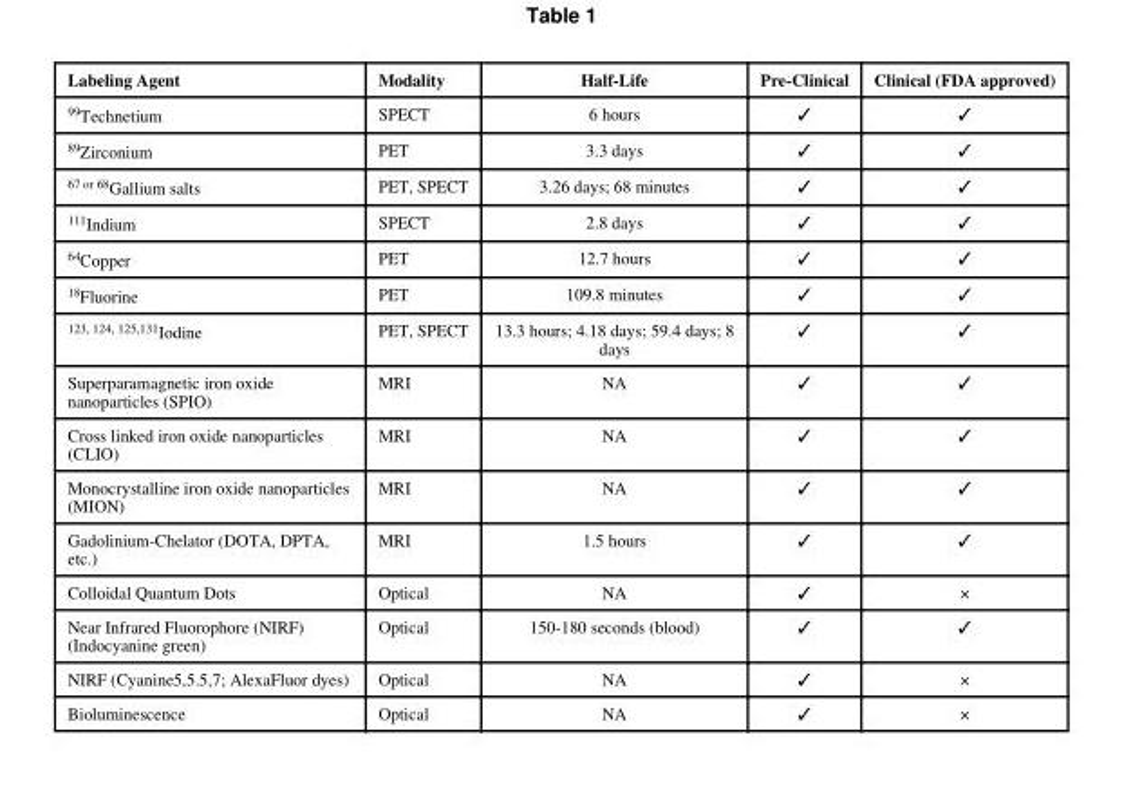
<table><thead><tr><td>Labeling Agent</td><td>Modality</td><td>Half-Life</td><td>Pre-Clinical</td><td>Clinical (FDA approved)</td></tr></thead><tbody><tr><td><sup>99</sup>Technetium</td><td>SPECT</td><td>6 hours</td><td>✓</td><td>✓</td></tr><tr><td><sup>89</sup>Zirconium</td><td>PET</td><td>3.3 days</td><td>✓</td><td>✓</td></tr><tr><td><sup>67 or 68</sup>Gallium salts</td><td>PET, SPECT</td><td>3.26 days; 68 minutes</td><td>✓</td><td>✓</td></tr><tr><td><sup>111</sup>Indium</td><td>SPECT</td><td>2.8 days</td><td>✓</td><td>✓</td></tr><tr><td><sup>64</sup>Copper</td><td>PET</td><td>12.7 hours</td><td>✓</td><td>✓</td></tr><tr><td><sup>18</sup>Fluorine</td><td>PET</td><td>109.8 minutes</td><td>✓</td><td>✓</td></tr><tr><td><sup>123, 124, 125,131</sup>Iodine</td><td>PET, SPECT</td><td>13.3 hours; 4.18 days; 59.4 days; 8 days</td><td>✓</td><td>✓</td></tr><tr><td>Superparamagnetic iron oxide nanoparticles (SPIO)</td><td>MRI</td><td>NA</td><td>✓</td><td>✓</td></tr><tr><td>Cross linked iron oxide nanoparticles (CLIO)</td><td>MRI</td><td>NA</td><td>✓</td><td>✓</td></tr><tr><td>Monocrystalline iron oxide nanoparticles (MION)</td><td>MRI</td><td>NA</td><td>✓</td><td>✓</td></tr><tr><td>Gadolinium-Chelator (DOTA, DPTA, etc.)</td><td>MRI</td><td>1.5 hours</td><td>✓</td><td>✓</td></tr><tr><td>Colloidal Quantum Dots</td><td>Optical</td><td>NA</td><td>✓</td><td>×</td></tr><tr><td>Near Infrared Fluorophore (NIRF) (Indocyanine green)</td><td>Optical</td><td>150-180 seconds (blood)</td><td>✓</td><td>✓</td></tr><tr><td>NIRF (Cyanine5,5.5,7; AlexaFluor dyes)</td><td>Optical</td><td>NA</td><td>✓</td><td>×</td></tr><tr><td>Bioluminescence</td><td>Optical</td><td>NA</td><td>✓</td><td>×</td></tr></tbody></table>